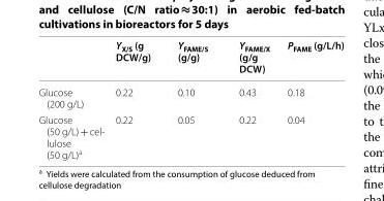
<table><thead><tr><td></td><td>Y<sub>X/S</sub> (g DCW/g)</td><td>Y<sub>FAME/S</sub> (g/g)</td><td>Y<sub>FAME/X</sub> (g/g DCW)</td><td>P<sub>FAME</sub> (g/L/h)</td></tr></thead><tbody><tr><td>Glucose (200 g/L)</td><td>0.22</td><td>0.10</td><td>0.43</td><td>0.18</td></tr><tr><td>Glucose (50 g/L) + cel‑ lulose (50 g/L)a</td><td>0.22</td><td>0.05</td><td>0.22</td><td>0.04</td></tr></tbody></table>